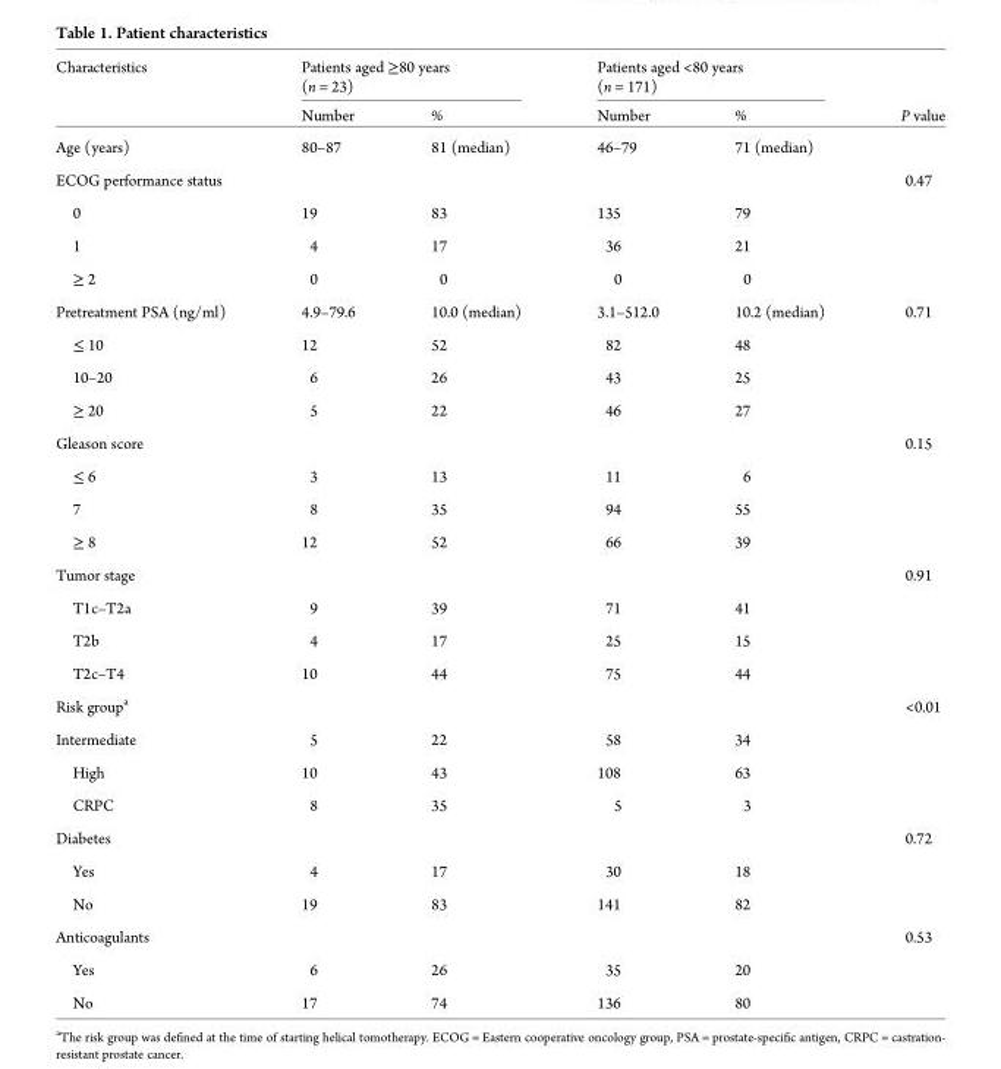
<table><thead><tr><td rowspan="2">Characteristics</td><td colspan="2">Patients aged ≥80 years (n = 23)</td><td colspan="2">Patients aged &lt;80 years (n = 171)</td><td rowspan="2">P value</td></tr><tr><td>Number</td><td>%</td><td>Number</td><td>%</td></tr></thead><tbody><tr><td>Age (years)</td><td>80–87</td><td>81 (median)</td><td>46–79</td><td>71 (median)</td><td></td></tr><tr><td>ECOG performance status</td><td></td><td></td><td></td><td></td><td>0.47</td></tr><tr><td>0</td><td>19</td><td>83</td><td>135</td><td>79</td><td></td></tr><tr><td>1</td><td>4</td><td>17</td><td>36</td><td>21</td><td></td></tr><tr><td>≥ 2</td><td>0</td><td>0</td><td>0</td><td>0</td><td></td></tr><tr><td>Pretreatment PSA (ng/ml)</td><td>4.9–79.6</td><td>10.0 (median)</td><td>3.1–512.0</td><td>10.2 (median)</td><td>0.71</td></tr><tr><td>≤ 10</td><td>12</td><td>52</td><td>82</td><td>48</td><td></td></tr><tr><td>10–20</td><td>6</td><td>26</td><td>43</td><td>25</td><td></td></tr><tr><td>≥ 20</td><td>5</td><td>22</td><td>46</td><td>27</td><td></td></tr><tr><td>Gleason score</td><td></td><td></td><td></td><td></td><td>0.15</td></tr><tr><td>≤ 6</td><td>3</td><td>13</td><td>11</td><td>6</td><td></td></tr><tr><td>7</td><td>8</td><td>35</td><td>94</td><td>55</td><td></td></tr><tr><td>≥ 8</td><td>12</td><td>52</td><td>66</td><td>39</td><td></td></tr><tr><td>Tumor stage</td><td></td><td></td><td></td><td></td><td>0.91</td></tr><tr><td>T1c–T2a</td><td>9</td><td>39</td><td>71</td><td>41</td><td></td></tr><tr><td>T2b</td><td>4</td><td>17</td><td>25</td><td>15</td><td></td></tr><tr><td>T2c–T4</td><td>10</td><td>44</td><td>75</td><td>44</td><td></td></tr><tr><td>Risk group<sup>a</sup></td><td></td><td></td><td></td><td></td><td>&lt;0.01</td></tr><tr><td>Intermediate</td><td>5</td><td>22</td><td>58</td><td>34</td><td></td></tr><tr><td>High</td><td>10</td><td>43</td><td>108</td><td>63</td><td></td></tr><tr><td>CRPC</td><td>8</td><td>35</td><td>5</td><td>3</td><td></td></tr><tr><td>Diabetes</td><td></td><td></td><td></td><td></td><td>0.72</td></tr><tr><td>Yes</td><td>4</td><td>17</td><td>30</td><td>18</td><td></td></tr><tr><td>No</td><td>19</td><td>83</td><td>141</td><td>82</td><td></td></tr><tr><td>Anticoagulants</td><td></td><td></td><td></td><td></td><td>0.53</td></tr><tr><td>Yes</td><td>6</td><td>26</td><td>35</td><td>20</td><td></td></tr><tr><td>No</td><td>17</td><td>74</td><td>136</td><td>80</td><td></td></tr></tbody></table>